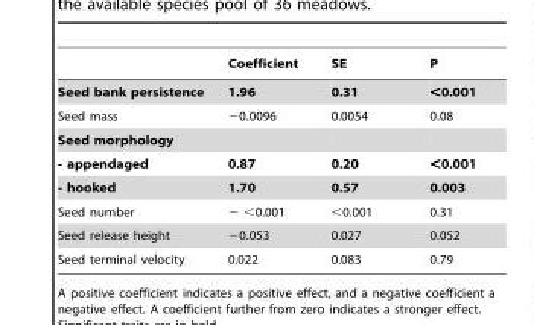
<table><thead><tr><td></td><td>Coefficient</td><td>SE</td><td>P</td></tr></thead><tbody><tr><td>Seed bank persistence</td><td>1.96</td><td>0.31</td><td>&lt;0.001</td></tr><tr><td>Seed mass</td><td>−0.0096</td><td>0.0054</td><td>0.08</td></tr><tr><td colspan="4">Seed morphology</td></tr><tr><td>- appendaged</td><td>0.87</td><td>0.20</td><td>&lt;0.001</td></tr><tr><td>- hooked</td><td>1.70</td><td>0.57</td><td>0.003</td></tr><tr><td>Seed number</td><td>− &lt;0.001</td><td>&lt;0.001</td><td>0.31</td></tr><tr><td>Seed release height</td><td>−0.053</td><td>0.027</td><td>0.052</td></tr><tr><td>Seed terminal velocity</td><td>0.022</td><td>0.083</td><td>0.79</td></tr></tbody></table>